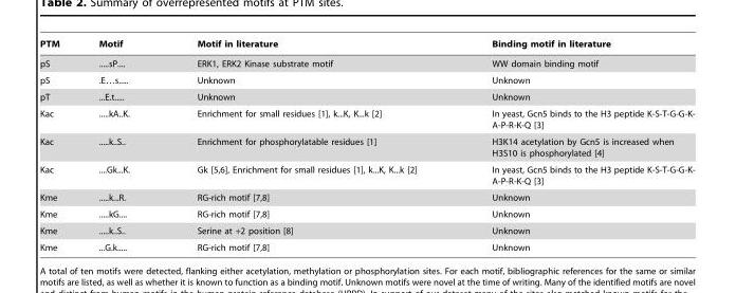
<table><thead><tr><td>PTM</td><td>Motif</td><td>Motif in literature</td><td>Binding motif in literature</td></tr></thead><tbody><tr><td>pS</td><td>.....sP....</td><td>ERK1, ERK2 Kinase substrate motif</td><td>WW domain binding motif</td></tr><tr><td>pS</td><td>.E…s.....</td><td>Unknown</td><td>Unknown</td></tr><tr><td>pT</td><td>...E.t.....</td><td>Unknown</td><td>Unknown</td></tr><tr><td>Kac</td><td>.....kA..K.</td><td>Enrichment for small residues [1], k...K, K...k [2]</td><td>In yeast, Gcn5 binds to the H3 peptide K-S-T-G-G-K- A-P-R-K-Q [3]</td></tr><tr><td>Kac</td><td>.....k..S..</td><td>Enrichment for phosphorylatable residues [1]</td><td>H3K14 acetylation by Gcn5 is increased when H3S10 is phosphorylated [4]</td></tr><tr><td>Kac</td><td>....Gk...K.</td><td>Gk [5,6], Enrichment for small residues [1], k...K, K...k [2]</td><td>In yeast, Gcn5 binds to the H3 peptide K-S-T-G-G-K- A-P-R-K-Q [3]</td></tr><tr><td>Kme</td><td>.....k...R.</td><td>RG-rich motif [7,8]</td><td>Unknown</td></tr><tr><td>Kme</td><td>.....kG....</td><td>RG-rich motif [7,8]</td><td>Unknown</td></tr><tr><td>Kme</td><td>.....k..S..</td><td>Serine at +2 position [8]</td><td>Unknown</td></tr><tr><td>Kme</td><td>...G.k.....</td><td>RG-rich motif [7,8]</td><td>Unknown</td></tr></tbody></table>